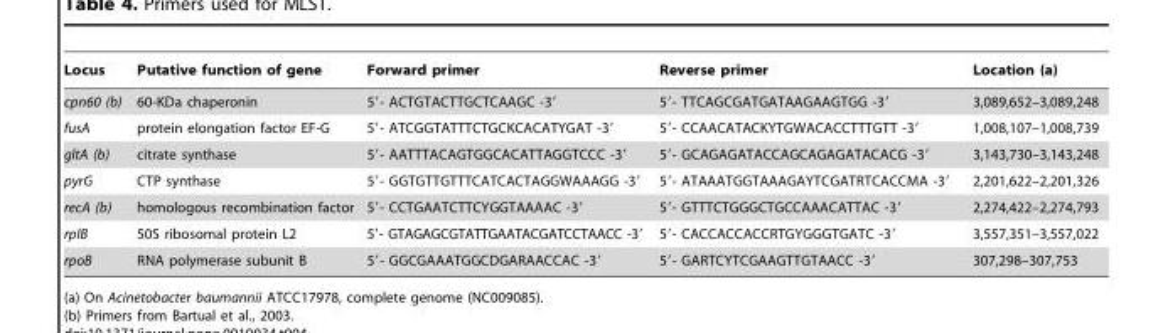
<table><thead><tr><td>Locus</td><td>Putative function of gene</td><td>Forward primer</td><td>Reverse primer</td><td>Location (a)</td></tr></thead><tbody><tr><td>cpn60 (b)</td><td>60-KDa chaperonin</td><td>5′- ACTGTACTTGCTCAAGC -3′</td><td>5′- TTCAGCGATGATAAGAAGTGG -3′</td><td>3,089,652–3,089,248</td></tr><tr><td>fusA</td><td>protein elongation factor EF-G</td><td>5′- ATCGGTATTTCTGCKCACATYGAT -3′</td><td>5′- CCAACATACKYTGWACACCTTTGTT -3′</td><td>1,008,107–1,008,739</td></tr><tr><td>gltA (b)</td><td>citrate synthase</td><td>5′- AATTTACAGTGGCACATTAGGTCCC -3′</td><td>5′- GCAGAGATACCAGCAGAGATACACG -3′</td><td>3,143,730–3,143,248</td></tr><tr><td>pyrG</td><td>CTP synthase</td><td>5′- GGTGTTGTTTCATCACTAGGWAAAGG -3′</td><td>5′- ATAAATGGTAAAGAYTCGATRTCACCMA -3′</td><td>2,201,622–2,201,326</td></tr><tr><td>recA (b)</td><td>homologous recombination factor</td><td>5′- CCTGAATCTTCYGGTAAAAC -3′</td><td>5′- GTTTCTGGGCTGCCAAACATTAC -3′</td><td>2,274,422–2,274,793</td></tr><tr><td>rplB</td><td>50S ribosomal protein L2</td><td>5′- GTAGAGCGTATTGAATACGATCCTAACC -3′</td><td>5′- CACCACCACCRTGYGGGTGATC -3′</td><td>3,557,351–3,557,022</td></tr><tr><td>rpoB</td><td>RNA polymerase subunit B</td><td>5′- GGCGAAATGGCDGARAACCAC -3′</td><td>5′- GARTCYTCGAAGTTGTAACC -3′</td><td>307,298–307,753</td></tr></tbody></table>